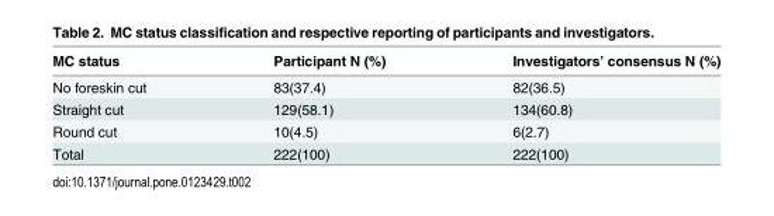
<table><thead><tr><td>MC status</td><td>Participant N (%)</td><td>Investigators’ consensus N (%)</td></tr></thead><tbody><tr><td>No foreskin cut</td><td>83(37.4)</td><td>82(36.5)</td></tr><tr><td>Straight cut</td><td>129(58.1)</td><td>134(60.8)</td></tr><tr><td>Round cut</td><td>10(4.5)</td><td>6(2.7)</td></tr><tr><td>Total</td><td>222(100)</td><td>222(100)</td></tr></tbody></table>